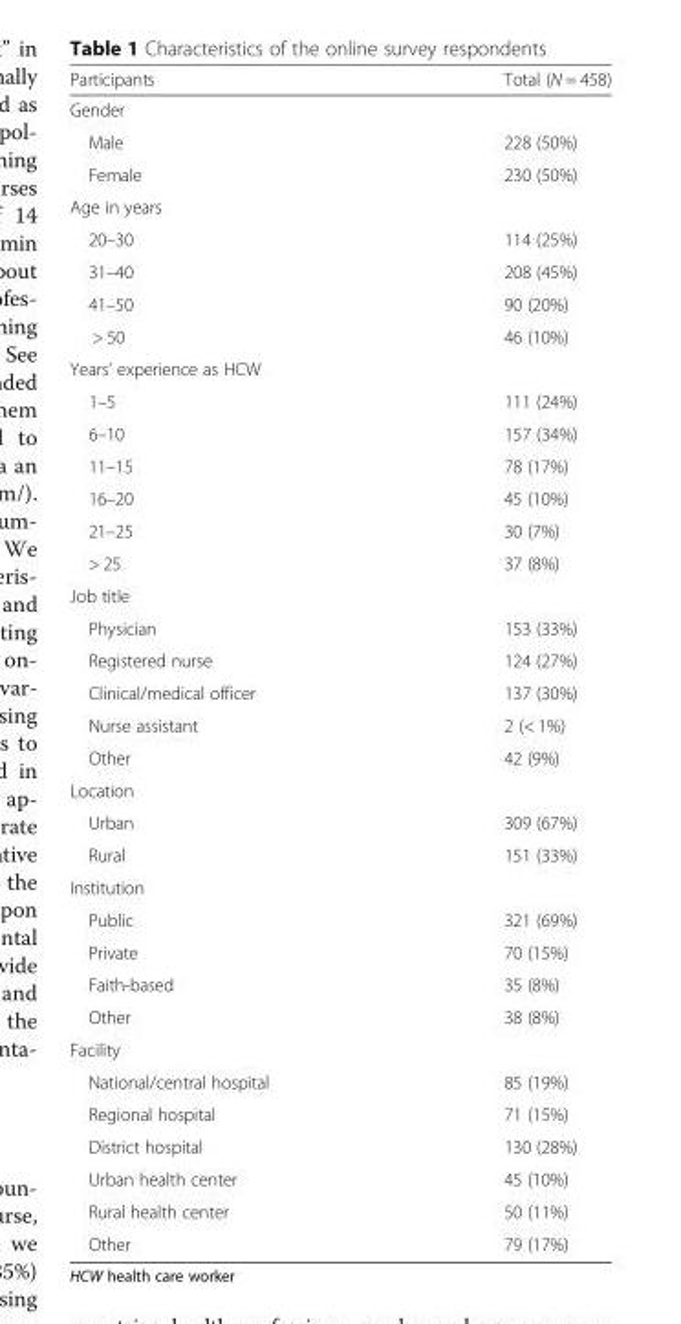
<table><thead><tr><td>Participants</td><td>Total (N = 458)</td></tr></thead><tbody><tr><td colspan="2">Gender</td></tr><tr><td>Male</td><td>228 (50%)</td></tr><tr><td>Female</td><td>230 (50%)</td></tr><tr><td colspan="2">Age in years</td></tr><tr><td>20–30</td><td>114 (25%)</td></tr><tr><td>31–40</td><td>208 (45%)</td></tr><tr><td>41–50</td><td>90 (20%)</td></tr><tr><td>&gt; 50</td><td>46 (10%)</td></tr><tr><td colspan="2">Years’ experience as HCW</td></tr><tr><td>1–5</td><td>111 (24%)</td></tr><tr><td>6–10</td><td>157 (34%)</td></tr><tr><td>11–15</td><td>78 (17%)</td></tr><tr><td>16–20</td><td>45 (10%)</td></tr><tr><td>21–25</td><td>30 (7%)</td></tr><tr><td>&gt; 25</td><td>37 (8%)</td></tr><tr><td colspan="2">Job title</td></tr><tr><td>Physician</td><td>153 (33%)</td></tr><tr><td>Registered nurse</td><td>124 (27%)</td></tr><tr><td>Clinical/medical officer</td><td>137 (30%)</td></tr><tr><td>Nurse assistant</td><td>2 (&lt; 1%)</td></tr><tr><td>Other</td><td>42 (9%)</td></tr><tr><td colspan="2">Location</td></tr><tr><td>Urban</td><td>309 (67%)</td></tr><tr><td>Rural</td><td>151 (33%)</td></tr><tr><td colspan="2">Institution</td></tr><tr><td>Public</td><td>321 (69%)</td></tr><tr><td>Private</td><td>70 (15%)</td></tr><tr><td>Faith-based</td><td>35 (8%)</td></tr><tr><td>Other</td><td>38 (8%)</td></tr><tr><td colspan="2">Facility</td></tr><tr><td>National/central hospital</td><td>85 (19%)</td></tr><tr><td>Regional hospital</td><td>71 (15%)</td></tr><tr><td>District hospital</td><td>130 (28%)</td></tr><tr><td>Urban health center</td><td>45 (10%)</td></tr><tr><td>Rural health center</td><td>50 (11%)</td></tr><tr><td>Other</td><td>79 (17%)</td></tr></tbody></table>